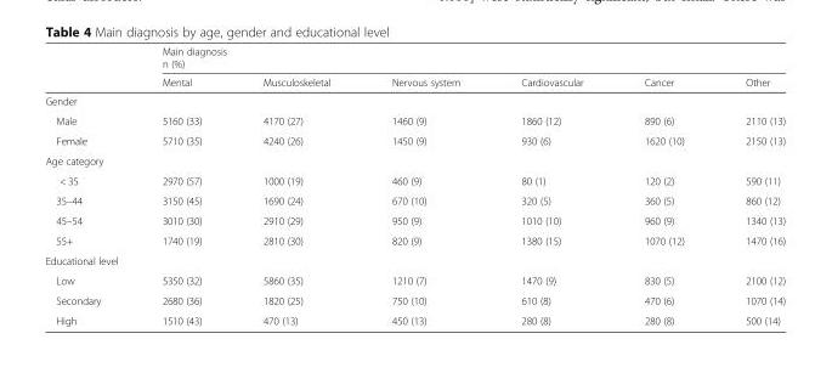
<table><thead><tr><td rowspan="2"></td><td colspan="6">Main diagnosis n (%)</td></tr><tr><td>Mental</td><td>Musculoskeletal</td><td>Nervous system</td><td>Cardiovascular</td><td>Cancer</td><td>Other</td></tr></thead><tbody><tr><td colspan="7">Gender</td></tr><tr><td>Male</td><td>5160 (33)</td><td>4170 (27)</td><td>1460 (9)</td><td>1860 (12)</td><td>890 (6)</td><td>2110 (13)</td></tr><tr><td>Female</td><td>5710 (35)</td><td>4240 (26)</td><td>1450 (9)</td><td>930 (6)</td><td>1620 (10)</td><td>2150 (13)</td></tr><tr><td colspan="7">Age category</td></tr><tr><td>&lt; 35</td><td>2970 (57)</td><td>1000 (19)</td><td>460 (9)</td><td>80 (1)</td><td>120 (2)</td><td>590 (11)</td></tr><tr><td>35–44</td><td>3150 (45)</td><td>1690 (24)</td><td>670 (10)</td><td>320 (5)</td><td>360 (5)</td><td>860 (12)</td></tr><tr><td>45–54</td><td>3010 (30)</td><td>2910 (29)</td><td>950 (9)</td><td>1010 (10)</td><td>960 (9)</td><td>1340 (13)</td></tr><tr><td>55+</td><td>1740 (19)</td><td>2810 (30)</td><td>820 (9)</td><td>1380 (15)</td><td>1070 (12)</td><td>1470 (16)</td></tr><tr><td colspan="7">Educational level</td></tr><tr><td>Low</td><td>5350 (32)</td><td>5860 (35)</td><td>1210 (7)</td><td>1470 (9)</td><td>830 (5)</td><td>2100 (12)</td></tr><tr><td>Secondary</td><td>2680 (36)</td><td>1820 (25)</td><td>750 (10)</td><td>610 (8)</td><td>470 (6)</td><td>1070 (14)</td></tr><tr><td>High</td><td>1510 (43)</td><td>470 (13)</td><td>450 (13)</td><td>280 (8)</td><td>280 (8)</td><td>500 (14)</td></tr></tbody></table>